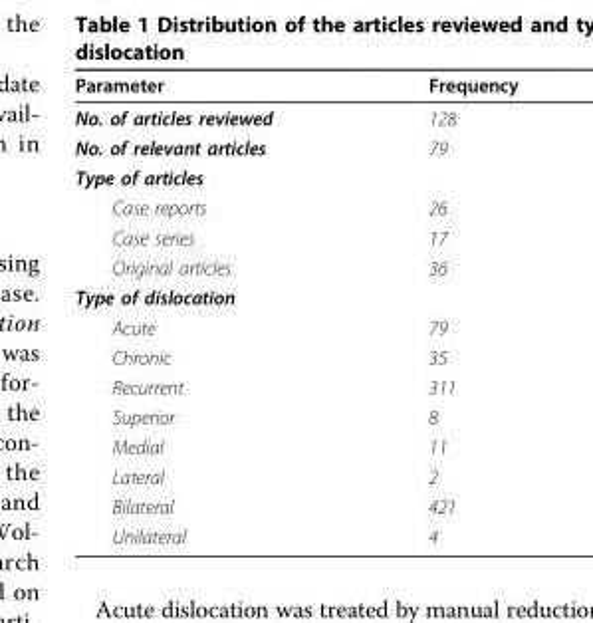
<table><thead><tr><td>Parameter</td><td>Frequency</td></tr></thead><tbody><tr><td>No. of articles reviewed</td><td>128</td></tr><tr><td>No. of relevant articles</td><td>79</td></tr><tr><td colspan="2">Type of articles</td></tr><tr><td>Case reports</td><td>26</td></tr><tr><td>Case series</td><td>17</td></tr><tr><td>Original articles</td><td>36</td></tr><tr><td colspan="2">Type of dislocation</td></tr><tr><td>Acute</td><td>79</td></tr><tr><td>Chronic</td><td>35</td></tr><tr><td>Recurrent</td><td>311</td></tr><tr><td>Superior</td><td>8</td></tr><tr><td>Medial</td><td>11</td></tr><tr><td>Lateral</td><td>2</td></tr><tr><td>Bilateral</td><td>421</td></tr><tr><td>Unilateral</td><td>4</td></tr></tbody></table>